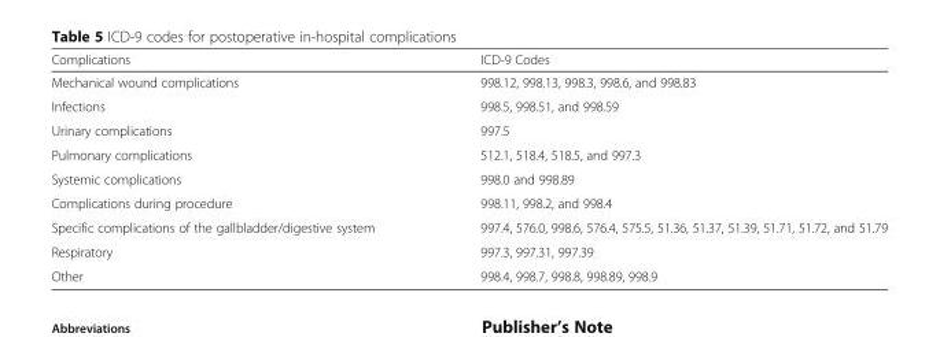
<table><thead><tr><td>Complications</td><td>ICD-9 Codes</td></tr></thead><tbody><tr><td>Mechanical wound complications</td><td>998.12, 998.13, 998.3, 998.6, and 998.83</td></tr><tr><td>Infections</td><td>998.5, 998.51, and 998.59</td></tr><tr><td>Urinary complications</td><td>997.5</td></tr><tr><td>Pulmonary complications</td><td>512.1, 518.4, 518.5, and 997.3</td></tr><tr><td>Systemic complications</td><td>998.0 and 998.89</td></tr><tr><td>Complications during procedure</td><td>998.11, 998.2, and 998.4</td></tr><tr><td>Specific complications of the gallbladder/digestive system</td><td>997.4, 576.0, 998.6, 576.4, 575.5, 51.36, 51.37, 51.39, 51.71, 51.72, and 51.79</td></tr><tr><td>Respiratory</td><td>997.3, 997.31, 997.39</td></tr><tr><td>Other</td><td>998.4, 998.7, 998.8, 998.89, 998.9</td></tr></tbody></table>